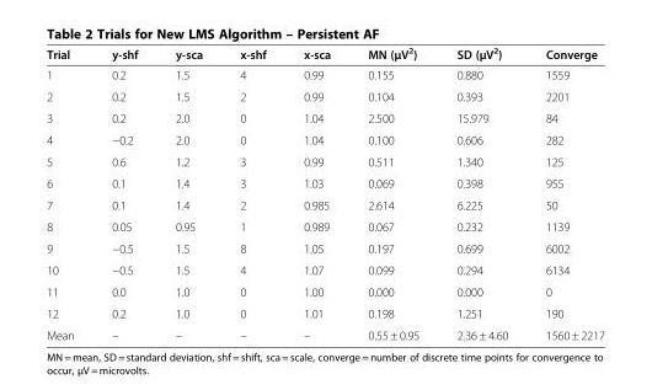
<table><thead><tr><td>Trial</td><td>y-shf</td><td>y-sca</td><td>x-shf</td><td>x-sca</td><td>MN (μV<sup>2</sup>)</td><td>SD (μV<sup>2</sup>)</td><td>Converge</td></tr></thead><tbody><tr><td>1</td><td>0.2</td><td>1.5</td><td>4</td><td>0.99</td><td>0.155</td><td>0.880</td><td>1559</td></tr><tr><td>2</td><td>0.2</td><td>1.5</td><td>2</td><td>0.99</td><td>0.104</td><td>0.393</td><td>2201</td></tr><tr><td>3</td><td>0.2</td><td>2.0</td><td>0</td><td>1.04</td><td>2.500</td><td>15.979</td><td>84</td></tr><tr><td>4</td><td>−0.2</td><td>2.0</td><td>0</td><td>1.04</td><td>0.100</td><td>0.606</td><td>282</td></tr><tr><td>5</td><td>0.6</td><td>1.2</td><td>3</td><td>0.99</td><td>0.511</td><td>1.340</td><td>125</td></tr><tr><td>6</td><td>0.1</td><td>1.4</td><td>3</td><td>1.03</td><td>0.069</td><td>0.398</td><td>955</td></tr><tr><td>7</td><td>0.1</td><td>1.4</td><td>2</td><td>0.985</td><td>2.614</td><td>6.225</td><td>50</td></tr><tr><td>8</td><td>0.05</td><td>0.95</td><td>1</td><td>0.989</td><td>0.067</td><td>0.232</td><td>1139</td></tr><tr><td>9</td><td>−0.5</td><td>1.5</td><td>8</td><td>1.05</td><td>0.197</td><td>0.699</td><td>6002</td></tr><tr><td>10</td><td>−0.5</td><td>1.5</td><td>4</td><td>1.07</td><td>0.099</td><td>0.294</td><td>6134</td></tr><tr><td>11</td><td>0.0</td><td>1.0</td><td>0</td><td>1.00</td><td>0.000</td><td>0.000</td><td>0</td></tr><tr><td>12</td><td>0.2</td><td>1.0</td><td>0</td><td>1.01</td><td>0.198</td><td>1.251</td><td>190</td></tr><tr><td>Mean</td><td>–</td><td>–</td><td>–</td><td>–</td><td>0.55 ± 0.95</td><td>2.36 ± 4.60</td><td>1560 ± 2217</td></tr></tbody></table>